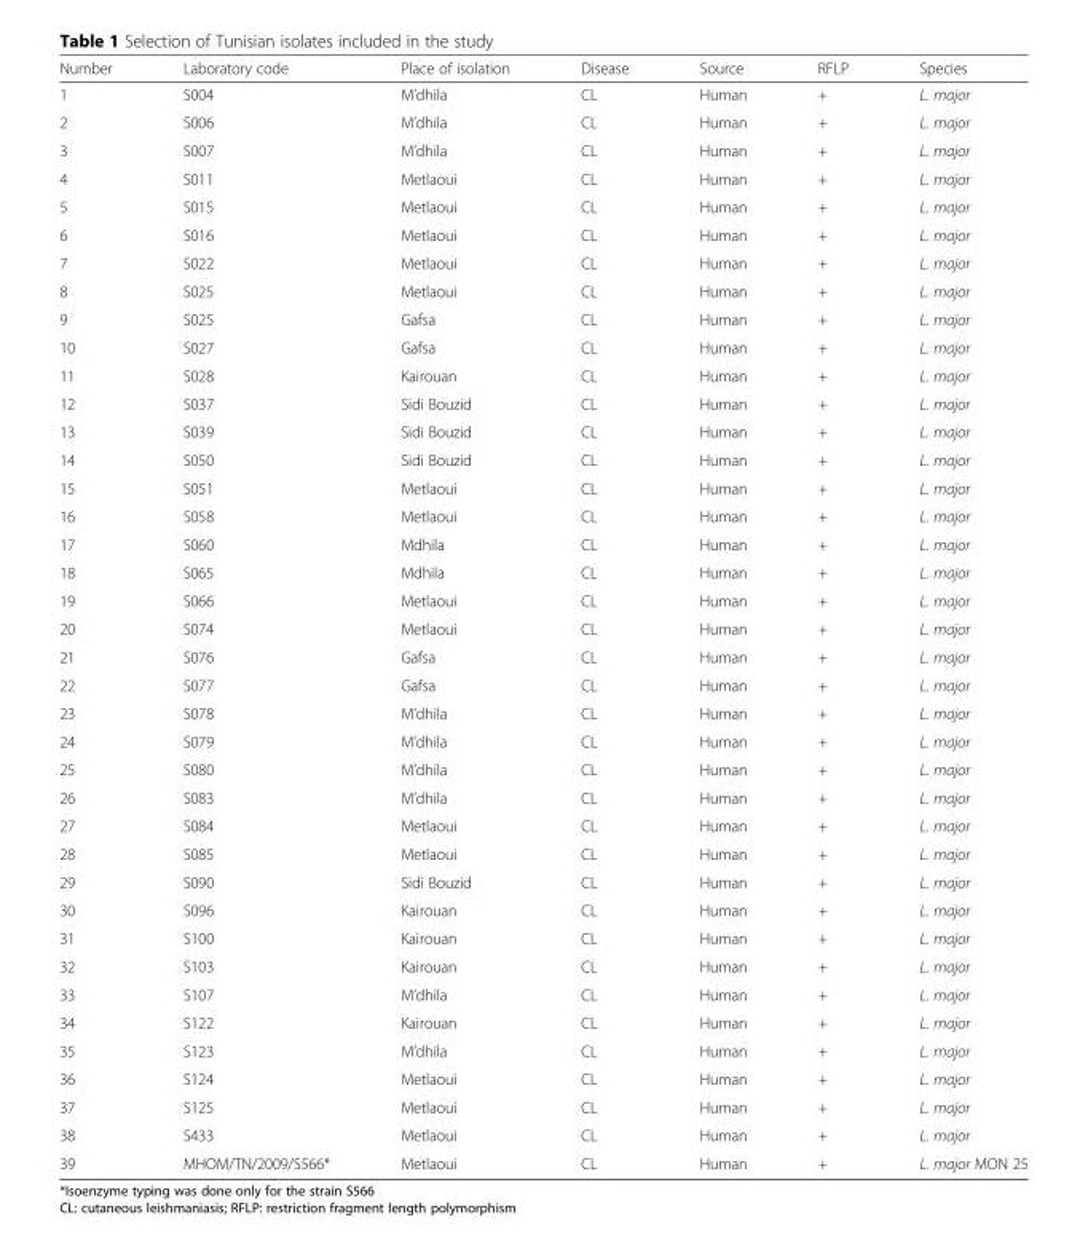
<table><thead><tr><td>Number</td><td>Laboratory code</td><td>Place of isolation</td><td>Disease</td><td>Source</td><td>RFLP</td><td>Species</td></tr></thead><tbody><tr><td>1</td><td>S004</td><td>M’dhila</td><td>CL</td><td>Human</td><td>+</td><td>L. major</td></tr><tr><td>2</td><td>S006</td><td>M’dhila</td><td>CL</td><td>Human</td><td>+</td><td>L. major</td></tr><tr><td>3</td><td>S007</td><td>M’dhila</td><td>CL</td><td>Human</td><td>+</td><td>L. major</td></tr><tr><td>4</td><td>S011</td><td>Metlaoui</td><td>CL</td><td>Human</td><td>+</td><td>L. major</td></tr><tr><td>5</td><td>S015</td><td>Metlaoui</td><td>CL</td><td>Human</td><td>+</td><td>L. major</td></tr><tr><td>6</td><td>S016</td><td>Metlaoui</td><td>CL</td><td>Human</td><td>+</td><td>L. major</td></tr><tr><td>7</td><td>S022</td><td>Metlaoui</td><td>CL</td><td>Human</td><td>+</td><td>L. major</td></tr><tr><td>8</td><td>S025</td><td>Metlaoui</td><td>CL</td><td>Human</td><td>+</td><td>L. major</td></tr><tr><td>9</td><td>S025</td><td>Gafsa</td><td>CL</td><td>Human</td><td>+</td><td>L. major</td></tr><tr><td>10</td><td>S027</td><td>Gafsa</td><td>CL</td><td>Human</td><td>+</td><td>L. major</td></tr><tr><td>11</td><td>S028</td><td>Kairouan</td><td>CL</td><td>Human</td><td>+</td><td>L. major</td></tr><tr><td>12</td><td>S037</td><td>Sidi Bouzid</td><td>CL</td><td>Human</td><td>+</td><td>L. major</td></tr><tr><td>13</td><td>S039</td><td>Sidi Bouzid</td><td>CL</td><td>Human</td><td>+</td><td>L. major</td></tr><tr><td>14</td><td>S050</td><td>Sidi Bouzid</td><td>CL</td><td>Human</td><td>+</td><td>L. major</td></tr><tr><td>15</td><td>S051</td><td>Metlaoui</td><td>CL</td><td>Human</td><td>+</td><td>L. major</td></tr><tr><td>16</td><td>S058</td><td>Metlaoui</td><td>CL</td><td>Human</td><td>+</td><td>L. major</td></tr><tr><td>17</td><td>S060</td><td>Mdhila</td><td>CL</td><td>Human</td><td>+</td><td>L. major</td></tr><tr><td>18</td><td>S065</td><td>Mdhila</td><td>CL</td><td>Human</td><td>+</td><td>L. major</td></tr><tr><td>19</td><td>S066</td><td>Metlaoui</td><td>CL</td><td>Human</td><td>+</td><td>L. major</td></tr><tr><td>20</td><td>S074</td><td>Metlaoui</td><td>CL</td><td>Human</td><td>+</td><td>L. major</td></tr><tr><td>21</td><td>S076</td><td>Gafsa</td><td>CL</td><td>Human</td><td>+</td><td>L. major</td></tr><tr><td>22</td><td>S077</td><td>Gafsa</td><td>CL</td><td>Human</td><td>+</td><td>L. major</td></tr><tr><td>23</td><td>S078</td><td>M’dhila</td><td>CL</td><td>Human</td><td>+</td><td>L. major</td></tr><tr><td>24</td><td>S079</td><td>M’dhila</td><td>CL</td><td>Human</td><td>+</td><td>L. major</td></tr><tr><td>25</td><td>S080</td><td>M’dhila</td><td>CL</td><td>Human</td><td>+</td><td>L. major</td></tr><tr><td>26</td><td>S083</td><td>M’dhila</td><td>CL</td><td>Human</td><td>+</td><td>L. major</td></tr><tr><td>27</td><td>S084</td><td>Metlaoui</td><td>CL</td><td>Human</td><td>+</td><td>L. major</td></tr><tr><td>28</td><td>S085</td><td>Metlaoui</td><td>CL</td><td>Human</td><td>+</td><td>L. major</td></tr><tr><td>29</td><td>S090</td><td>Sidi Bouzid</td><td>CL</td><td>Human</td><td>+</td><td>L. major</td></tr><tr><td>30</td><td>S096</td><td>Kairouan</td><td>CL</td><td>Human</td><td>+</td><td>L. major</td></tr><tr><td>31</td><td>S100</td><td>Kairouan</td><td>CL</td><td>Human</td><td>+</td><td>L. major</td></tr><tr><td>32</td><td>S103</td><td>Kairouan</td><td>CL</td><td>Human</td><td>+</td><td>L. major</td></tr><tr><td>33</td><td>S107</td><td>M’dhila</td><td>CL</td><td>Human</td><td>+</td><td>L. major</td></tr><tr><td>34</td><td>S122</td><td>Kairouan</td><td>CL</td><td>Human</td><td>+</td><td>L. major</td></tr><tr><td>35</td><td>S123</td><td>M’dhila</td><td>CL</td><td>Human</td><td>+</td><td>L. major</td></tr><tr><td>36</td><td>S124</td><td>Metlaoui</td><td>CL</td><td>Human</td><td>+</td><td>L. major</td></tr><tr><td>37</td><td>S125</td><td>Metlaoui</td><td>CL</td><td>Human</td><td>+</td><td>L. major</td></tr><tr><td>38</td><td>S433</td><td>Metlaoui</td><td>CL</td><td>Human</td><td>+</td><td>L. major</td></tr><tr><td>39</td><td>MHOM/TN/2009/S566*</td><td>Metlaoui</td><td>CL</td><td>Human</td><td>+</td><td>L. major MON 25</td></tr></tbody></table>